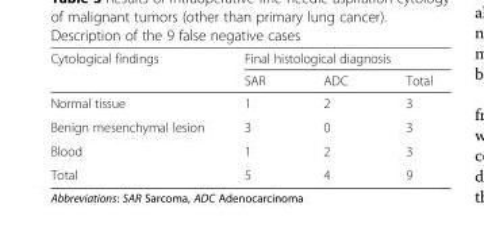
<table><thead><tr><td rowspan="2">Cytological findings</td><td colspan="3">Final histological diagnosis</td></tr><tr><td>SAR</td><td>ADC</td><td>Total</td></tr></thead><tbody><tr><td>Normal tissue</td><td>1</td><td>2</td><td>3</td></tr><tr><td>Benign mesenchymal lesion</td><td>3</td><td>0</td><td>3</td></tr><tr><td>Blood</td><td>1</td><td>2</td><td>3</td></tr><tr><td>Total</td><td>5</td><td>4</td><td>9</td></tr></tbody></table>